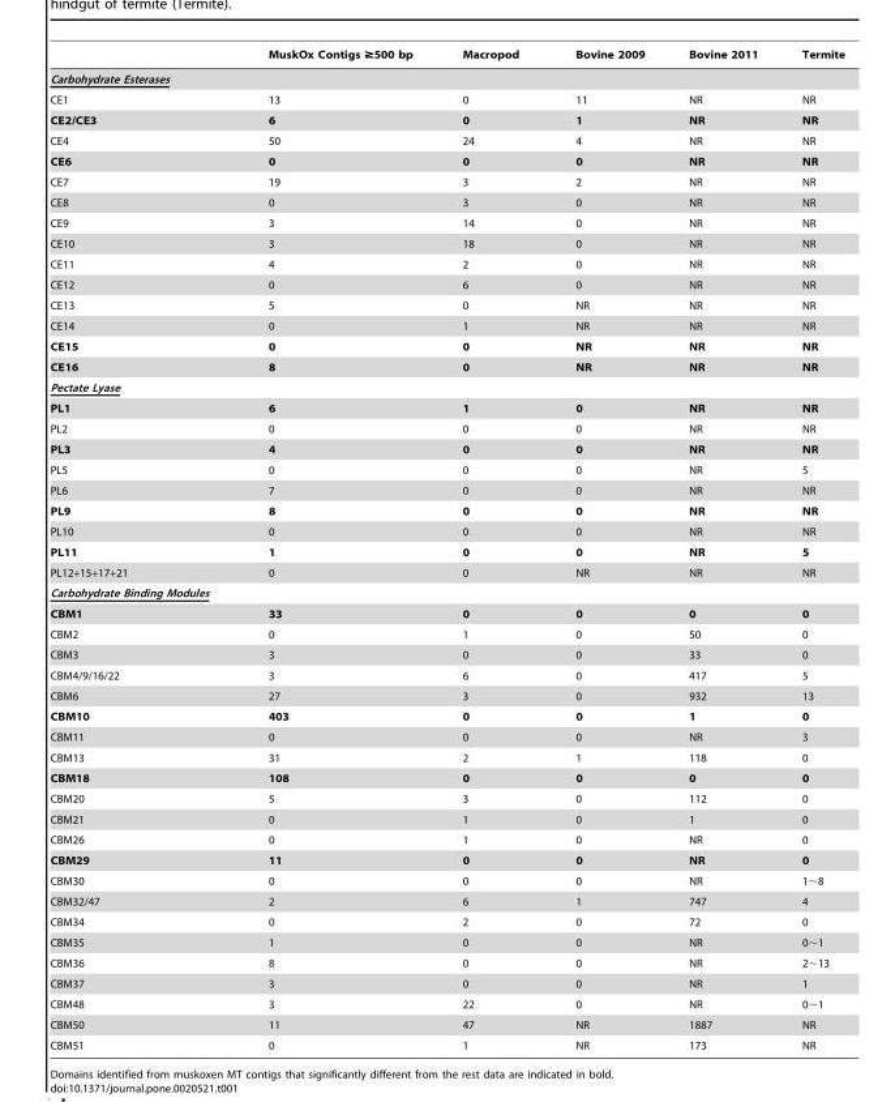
<table><thead><tr><td></td><td>MuskOx Contigs ≥500 bp</td><td>Macropod</td><td>Bovine 2009</td><td>Bovine 2011</td><td>Termite</td></tr></thead><tbody><tr><td colspan="6">Carbohydrate Esterases</td></tr><tr><td>CE1</td><td>13</td><td>0</td><td>11</td><td>NR</td><td>NR</td></tr><tr><td>CE2/CE3</td><td>6</td><td>0</td><td>1</td><td>NR</td><td>NR</td></tr><tr><td>CE4</td><td>50</td><td>24</td><td>4</td><td>NR</td><td>NR</td></tr><tr><td>CE6</td><td>0</td><td>0</td><td>0</td><td>NR</td><td>NR</td></tr><tr><td>CE7</td><td>19</td><td>3</td><td>2</td><td>NR</td><td>NR</td></tr><tr><td>CE8</td><td>0</td><td>3</td><td>0</td><td>NR</td><td>NR</td></tr><tr><td>CE9</td><td>3</td><td>14</td><td>0</td><td>NR</td><td>NR</td></tr><tr><td>CE10</td><td>3</td><td>18</td><td>0</td><td>NR</td><td>NR</td></tr><tr><td>CE11</td><td>4</td><td>2</td><td>0</td><td>NR</td><td>NR</td></tr><tr><td>CE12</td><td>0</td><td>6</td><td>0</td><td>NR</td><td>NR</td></tr><tr><td>CE13</td><td>5</td><td>0</td><td>NR</td><td>NR</td><td>NR</td></tr><tr><td>CE14</td><td>0</td><td>1</td><td>NR</td><td>NR</td><td>NR</td></tr><tr><td>CE15</td><td>0</td><td>0</td><td>NR</td><td>NR</td><td>NR</td></tr><tr><td>CE16</td><td>8</td><td>0</td><td>NR</td><td>NR</td><td>NR</td></tr><tr><td colspan="6">Pectate Lyase</td></tr><tr><td>PL1</td><td>6</td><td>1</td><td>0</td><td>NR</td><td>NR</td></tr><tr><td>PL2</td><td>0</td><td>0</td><td>0</td><td>NR</td><td>NR</td></tr><tr><td>PL3</td><td>4</td><td>0</td><td>0</td><td>NR</td><td>NR</td></tr><tr><td>PL5</td><td>0</td><td>0</td><td>0</td><td>NR</td><td>5</td></tr><tr><td>PL6</td><td>7</td><td>0</td><td>0</td><td>NR</td><td>NR</td></tr><tr><td>PL9</td><td>8</td><td>0</td><td>0</td><td>NR</td><td>NR</td></tr><tr><td>PL10</td><td>0</td><td>0</td><td>0</td><td>NR</td><td>NR</td></tr><tr><td>PL11</td><td>1</td><td>0</td><td>0</td><td>NR</td><td>5</td></tr><tr><td>PL12+15+17+21</td><td>0</td><td>0</td><td>NR</td><td>NR</td><td>NR</td></tr><tr><td colspan="6">Carbohydrate Binding Modules</td></tr><tr><td>CBM1</td><td>33</td><td>0</td><td>0</td><td>0</td><td>0</td></tr><tr><td>CBM2</td><td>0</td><td>1</td><td>0</td><td>50</td><td>0</td></tr><tr><td>CBM3</td><td>3</td><td>0</td><td>0</td><td>33</td><td>0</td></tr><tr><td>CBM4/9/16/22</td><td>3</td><td>6</td><td>0</td><td>417</td><td>5</td></tr><tr><td>CBM6</td><td>27</td><td>3</td><td>0</td><td>932</td><td>13</td></tr><tr><td>CBM10</td><td>403</td><td>0</td><td>0</td><td>1</td><td>0</td></tr><tr><td>CBM11</td><td>0</td><td>0</td><td>0</td><td>NR</td><td>3</td></tr><tr><td>CBM13</td><td>31</td><td>2</td><td>1</td><td>118</td><td>0</td></tr><tr><td>CBM18</td><td>108</td><td>0</td><td>0</td><td>0</td><td>0</td></tr><tr><td>CBM20</td><td>5</td><td>3</td><td>0</td><td>112</td><td>0</td></tr><tr><td>CBM21</td><td>0</td><td>1</td><td>0</td><td>1</td><td>0</td></tr><tr><td>CBM26</td><td>0</td><td>1</td><td>0</td><td>NR</td><td>0</td></tr><tr><td>CBM29</td><td>11</td><td>0</td><td>0</td><td>NR</td><td>0</td></tr><tr><td>CBM30</td><td>0</td><td>0</td><td>0</td><td>NR</td><td>1∼8</td></tr><tr><td>CBM32/47</td><td>2</td><td>6</td><td>1</td><td>747</td><td>4</td></tr><tr><td>CBM34</td><td>0</td><td>2</td><td>0</td><td>72</td><td>0</td></tr><tr><td>CBM35</td><td>1</td><td>0</td><td>0</td><td>NR</td><td>0∼1</td></tr><tr><td>CBM36</td><td>8</td><td>0</td><td>0</td><td>NR</td><td>2∼13</td></tr><tr><td>CBM37</td><td>3</td><td>0</td><td>0</td><td>NR</td><td>1</td></tr><tr><td>CBM48</td><td>3</td><td>22</td><td>0</td><td>NR</td><td>0∼1</td></tr><tr><td>CBM50</td><td>11</td><td>47</td><td>NR</td><td>1887</td><td>NR</td></tr><tr><td>CBM51</td><td>0</td><td>1</td><td>NR</td><td>173</td><td>NR</td></tr></tbody></table>